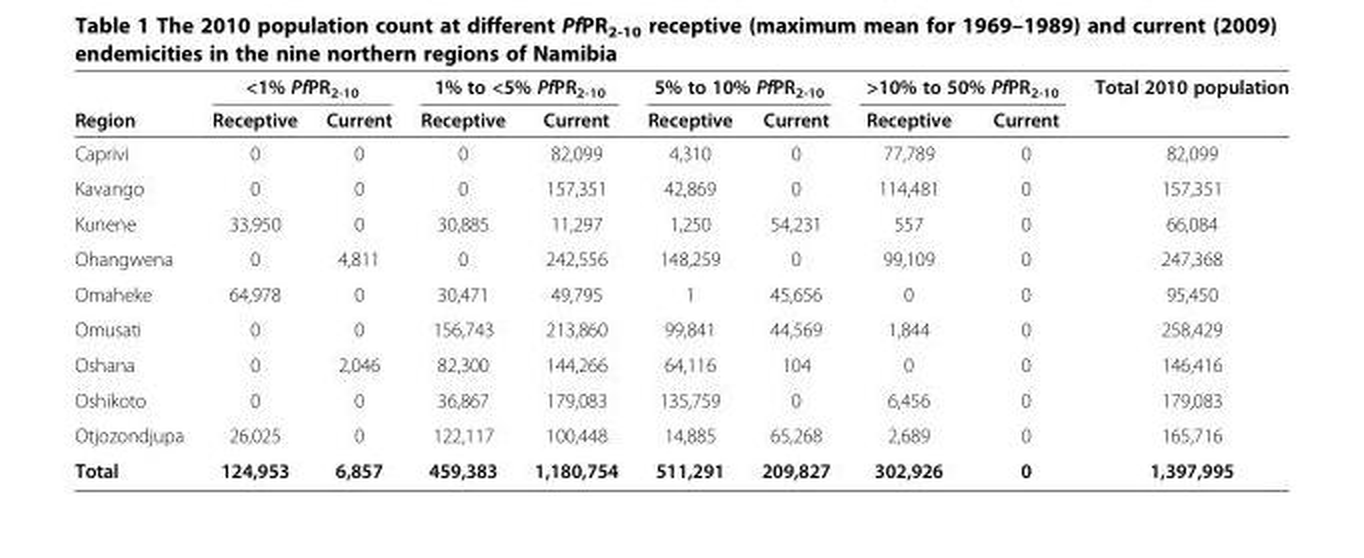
<table><thead><tr><td rowspan="2">Region</td><td colspan="2">&lt;1% PfPR<sub>2-10</sub></td><td colspan="2">1% to &lt;5% PfPR<sub>2-10</sub></td><td colspan="2">5% to 10% PfPR<sub>2-10</sub></td><td colspan="2">&gt;10% to 50% PfPR<sub>2-10</sub></td><td rowspan="2">Total 2010 population</td></tr><tr><td>Receptive</td><td>Current</td><td>Receptive</td><td>Current</td><td>Receptive</td><td>Current</td><td>Receptive</td><td>Current</td></tr></thead><tbody><tr><td>Caprivi</td><td>0</td><td>0</td><td>0</td><td>82,099</td><td>4,310</td><td>0</td><td>77,789</td><td>0</td><td>82,099</td></tr><tr><td>Kavango</td><td>0</td><td>0</td><td>0</td><td>157,351</td><td>42,869</td><td>0</td><td>114,481</td><td>0</td><td>157,351</td></tr><tr><td>Kunene</td><td>33,950</td><td>0</td><td>30,885</td><td>11,297</td><td>1,250</td><td>54,231</td><td>557</td><td>0</td><td>66,084</td></tr><tr><td>Ohangwena</td><td>0</td><td>4,811</td><td>0</td><td>242,556</td><td>148,259</td><td>0</td><td>99,109</td><td>0</td><td>247,368</td></tr><tr><td>Omaheke</td><td>64,978</td><td>0</td><td>30,471</td><td>49,795</td><td>1</td><td>45,656</td><td>0</td><td>0</td><td>95,450</td></tr><tr><td>Omusati</td><td>0</td><td>0</td><td>156,743</td><td>213,860</td><td>99,841</td><td>44,569</td><td>1,844</td><td>0</td><td>258,429</td></tr><tr><td>Oshana</td><td>0</td><td>2,046</td><td>82,300</td><td>144,266</td><td>64,116</td><td>104</td><td>0</td><td>0</td><td>146,416</td></tr><tr><td>Oshikoto</td><td>0</td><td>0</td><td>36,867</td><td>179,083</td><td>135,759</td><td>0</td><td>6,456</td><td>0</td><td>179,083</td></tr><tr><td>Otjozondjupa</td><td>26,025</td><td>0</td><td>122,117</td><td>100,448</td><td>14,885</td><td>65,268</td><td>2,689</td><td>0</td><td>165,716</td></tr><tr><td>Total</td><td>124,953</td><td>6,857</td><td>459,383</td><td>1,180,754</td><td>511,291</td><td>209,827</td><td>302,926</td><td>0</td><td>1,397,995</td></tr></tbody></table>